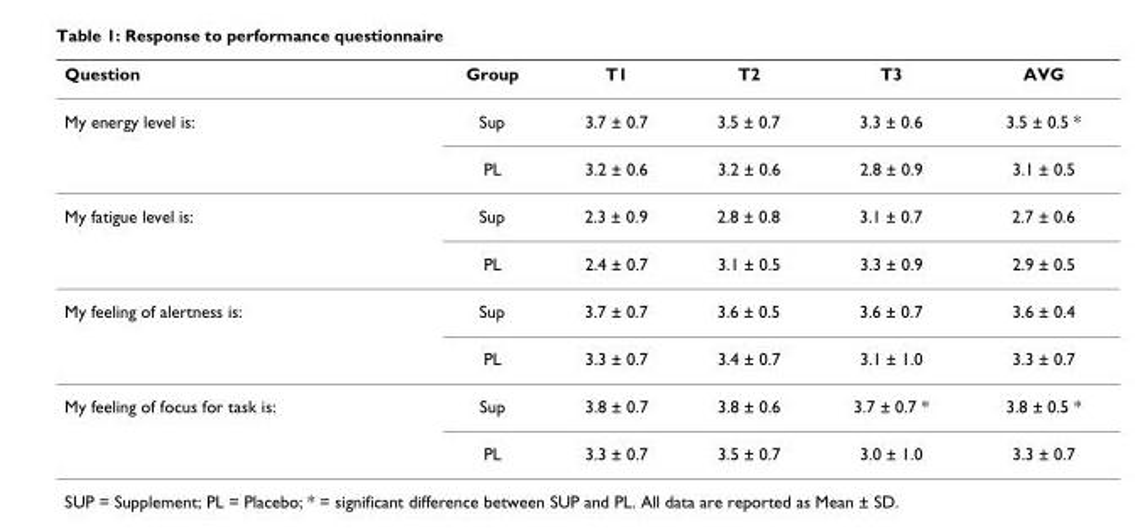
<table><thead><tr><td>Question</td><td>Group</td><td>T1</td><td>T2</td><td>T3</td><td>AVG</td></tr></thead><tbody><tr><td rowspan="2">My energy level is:</td><td>Sup</td><td>3.7 ± 0.7</td><td>3.5 ± 0.7</td><td>3.3 ± 0.6</td><td>3.5 ± 0.5 *</td></tr><tr><td>PL</td><td>3.2 ± 0.6</td><td>3.2 ± 0.6</td><td>2.8 ± 0.9</td><td>3.1 ± 0.5</td></tr><tr><td rowspan="2">My fatigue level is:</td><td>Sup</td><td>2.3 ± 0.9</td><td>2.8 ± 0.8</td><td>3.1 ± 0.7</td><td>2.7 ± 0.6</td></tr><tr><td>PL</td><td>2.4 ± 0.7</td><td>3.1 ± 0.5</td><td>3.3 ± 0.9</td><td>2.9 ± 0.5</td></tr><tr><td rowspan="2">My feeling of alertness is:</td><td>Sup</td><td>3.7 ± 0.7</td><td>3.6 ± 0.5</td><td>3.6 ± 0.7</td><td>3.6 ± 0.4</td></tr><tr><td>PL</td><td>3.3 ± 0.7</td><td>3.4 ± 0.7</td><td>3.1 ± 1.0</td><td>3.3 ± 0.7</td></tr><tr><td rowspan="2">My feeling of focus for task is:</td><td>Sup</td><td>3.8 ± 0.7</td><td>3.8 ± 0.6</td><td>3.7 ± 0.7 *</td><td>3.8 ± 0.5 *</td></tr><tr><td>PL</td><td>3.3 ± 0.7</td><td>3.5 ± 0.7</td><td>3.0 ± 1.0</td><td>3.3 ± 0.7</td></tr></tbody></table>